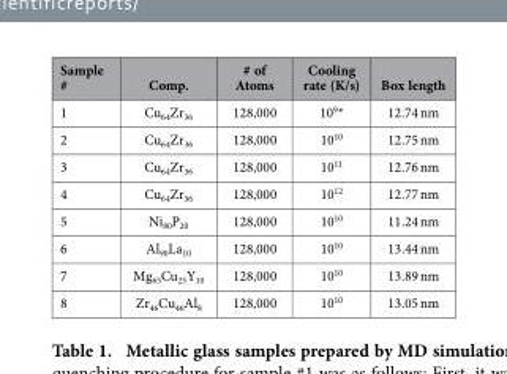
<table><thead><tr><td>Sample #</td><td>Comp.</td><td># of Atoms</td><td>Cooling rate (K/s)</td><td>Box length</td></tr></thead><tbody><tr><td>1</td><td>Cu<sub>64</sub>Zr<sub>36</sub></td><td>128,000</td><td>10<sup>9</sup>*</td><td>12.74 nm</td></tr><tr><td>2</td><td>Cu<sub>64</sub>Zr<sub>36</sub></td><td>128,000</td><td>10<sup>10</sup></td><td>12.75 nm</td></tr><tr><td>3</td><td>Cu<sub>64</sub>Zr<sub>36</sub></td><td>128,000</td><td>10<sup>11</sup></td><td>12.76 nm</td></tr><tr><td>4</td><td>Cu<sub>64</sub>Zr<sub>36</sub></td><td>128,000</td><td>10<sup>12</sup></td><td>12.77 nm</td></tr><tr><td>5</td><td>Ni<sub>80</sub>P<sub>20</sub></td><td>128,000</td><td>10<sup>10</sup></td><td>11.24 nm</td></tr><tr><td>6</td><td>Al<sub>90</sub>La<sub>10</sub></td><td>128,000</td><td>10<sup>10</sup></td><td>13.44 nm</td></tr><tr><td>7</td><td>Mg<sub>65</sub>Cu<sub>25</sub>Y<sub>10</sub></td><td>128,000</td><td>10<sup>10</sup></td><td>13.89 nm</td></tr><tr><td>8</td><td>Zr<sub>46</sub>Cu<sub>46</sub>Al<sub>8</sub></td><td>128,000</td><td>10<sup>10</sup></td><td>13.05 nm</td></tr></tbody></table>